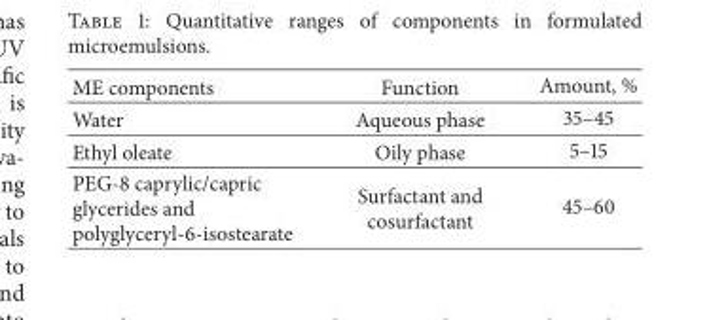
<table><thead><tr><td>ME components</td><td>Function</td><td>Amount, %</td></tr></thead><tbody><tr><td>Water</td><td>Aqueous phase</td><td>35–45</td></tr><tr><td>Ethyl oleate</td><td>Oily phase</td><td>5–15</td></tr><tr><td>PEG-8 caprylic/capric glycerides and polyglyceryl-6-isostearate</td><td>Surfactant and cosurfactant</td><td>45–60</td></tr></tbody></table>